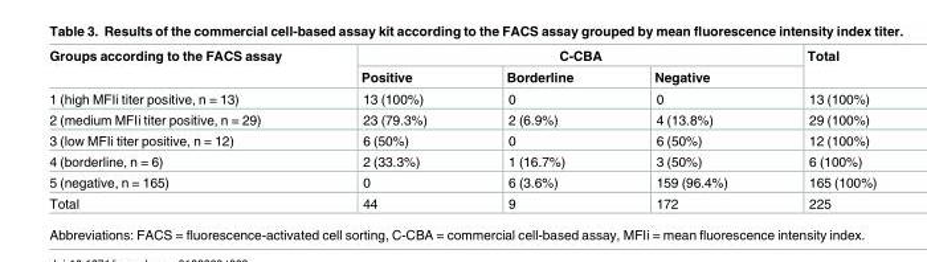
<table><thead><tr><td rowspan="2">Groups according to the FACS assay</td><td colspan="3">C-CBA</td><td rowspan="2">Total</td></tr><tr><td>Positive</td><td>Borderline</td><td>Negative</td></tr></thead><tbody><tr><td>1 (high MFIi titer positive, n = 13)</td><td>13 (100%)</td><td>0</td><td>0</td><td>13 (100%)</td></tr><tr><td>2 (medium MFIi titer positive, n = 29)</td><td>23 (79.3%)</td><td>2 (6.9%)</td><td>4 (13.8%)</td><td>29 (100%)</td></tr><tr><td>3 (low MFIi titer positive, n = 12)</td><td>6 (50%)</td><td>0</td><td>6 (50%)</td><td>12 (100%)</td></tr><tr><td>4 (borderline, n = 6)</td><td>2 (33.3%)</td><td>1 (16.7%)</td><td>3 (50%)</td><td>6 (100%)</td></tr><tr><td>5 (negative, n = 165)</td><td>0</td><td>6 (3.6%)</td><td>159 (96.4%)</td><td>165 (100%)</td></tr><tr><td>Total</td><td>44</td><td>9</td><td>172</td><td>225</td></tr></tbody></table>